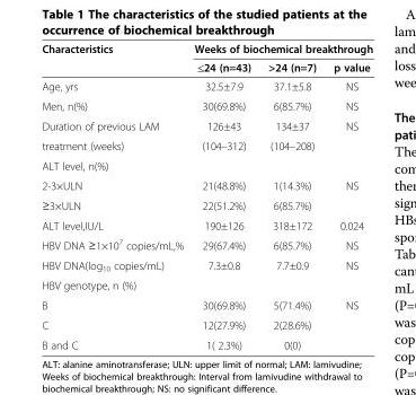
<table><thead><tr><td rowspan="2">Characteristics</td><td colspan="3">Weeks of biochemical breakthrough</td></tr><tr><td>≤24 (n=43)</td><td>&gt;24 (n=7)</td><td>p value</td></tr></thead><tbody><tr><td>Age, yrs</td><td>32.5±7.9</td><td>37.1±5.8</td><td>NS</td></tr><tr><td>Men, n(%)</td><td>30(69.8%)</td><td>6(85.7%)</td><td>NS</td></tr><tr><td>Duration of previous LAM</td><td>126±43</td><td>134±37</td><td>NS</td></tr><tr><td>treatment (weeks)</td><td>(104–312)</td><td>(104–208)</td><td></td></tr><tr><td colspan="4">ALT level, n(%)</td></tr><tr><td>2-3×ULN</td><td>21(48.8%)</td><td>1(14.3%)</td><td>NS</td></tr><tr><td>≥3×ULN</td><td>22(51.2%)</td><td>6(85.7%)</td><td></td></tr><tr><td>ALT level,IU/L</td><td>190±126</td><td>318±172</td><td>0.024</td></tr><tr><td>HBV DNA ≥1×10<sup>7</sup> copies/mL,%</td><td>29(67.4%)</td><td>6(85.7%)</td><td>NS</td></tr><tr><td>HBV DNA(log<sub>10</sub> copies/mL)</td><td>7.3±0.8</td><td>7.7±0.9</td><td>NS</td></tr><tr><td colspan="4">HBV genotype, n (%)</td></tr><tr><td>B</td><td>30(69.8%)</td><td>5(71.4%)</td><td>NS</td></tr><tr><td>C</td><td>12(27.9%)</td><td>2(28.6%)</td><td></td></tr><tr><td>B and C</td><td>1( 2.3%)</td><td>0(0)</td><td></td></tr></tbody></table>